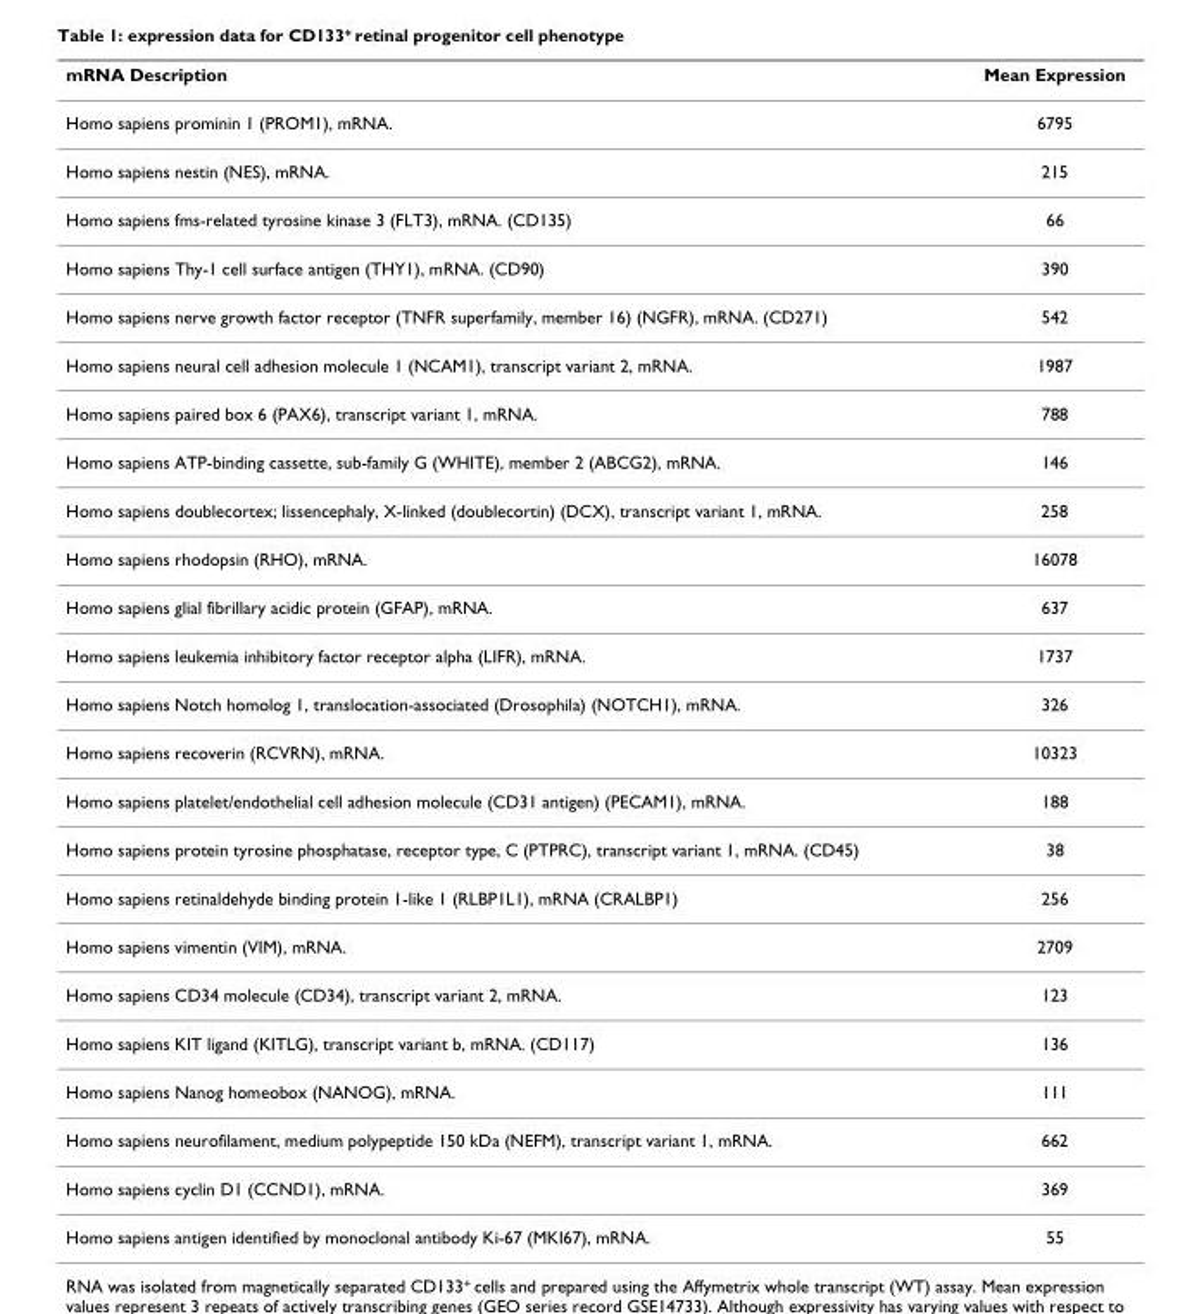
<table><thead><tr><td>mRNA Description</td><td>Mean Expression</td></tr></thead><tbody><tr><td>Homo sapiens prominin 1 (PROM1), mRNA.</td><td>6795</td></tr><tr><td>Homo sapiens nestin (NES), mRNA.</td><td>215</td></tr><tr><td>Homo sapiens fms-related tyrosine kinase 3 (FLT3), mRNA. (CD135)</td><td>66</td></tr><tr><td>Homo sapiens Thy-1 cell surface antigen (THY1), mRNA. (CD90)</td><td>390</td></tr><tr><td>Homo sapiens nerve growth factor receptor (TNFR superfamily, member 16) (NGFR), mRNA. (CD271)</td><td>542</td></tr><tr><td>Homo sapiens neural cell adhesion molecule 1 (NCAM1), transcript variant 2, mRNA.</td><td>1987</td></tr><tr><td>Homo sapiens paired box 6 (PAX6), transcript variant 1, mRNA.</td><td>788</td></tr><tr><td>Homo sapiens ATP-binding cassette, sub-family G (WHITE), member 2 (ABCG2), mRNA.</td><td>146</td></tr><tr><td>Homo sapiens doublecortex; lissencephaly, X-linked (doublecortin) (DCX), transcript variant 1, mRNA.</td><td>258</td></tr><tr><td>Homo sapiens rhodopsin (RHO), mRNA.</td><td>16078</td></tr><tr><td>Homo sapiens glial fibrillary acidic protein (GFAP), mRNA.</td><td>637</td></tr><tr><td>Homo sapiens leukemia inhibitory factor receptor alpha (LIFR), mRNA.</td><td>1737</td></tr><tr><td>Homo sapiens Notch homolog 1, translocation-associated (Drosophila) (NOTCH1), mRNA.</td><td>326</td></tr><tr><td>Homo sapiens recoverin (RCVRN), mRNA.</td><td>10323</td></tr><tr><td>Homo sapiens platelet/endothelial cell adhesion molecule (CD31 antigen) (PECAM1), mRNA.</td><td>188</td></tr><tr><td>Homo sapiens protein tyrosine phosphatase, receptor type, C (PTPRC), transcript variant 1, mRNA. (CD45)</td><td>38</td></tr><tr><td>Homo sapiens retinaldehyde binding protein 1-like 1 (RLBP1L1), mRNA (CRALBP1)</td><td>256</td></tr><tr><td>Homo sapiens vimentin (VIM), mRNA.</td><td>2709</td></tr><tr><td>Homo sapiens CD34 molecule (CD34), transcript variant 2, mRNA.</td><td>123</td></tr><tr><td>Homo sapiens KIT ligand (KITLG), transcript variant b, mRNA. (CD117)</td><td>136</td></tr><tr><td>Homo sapiens Nanog homeobox (NANOG), mRNA.</td><td>111</td></tr><tr><td>Homo sapiens neurofilament, medium polypeptide 150 kDa (NEFM), transcript variant 1, mRNA.</td><td>662</td></tr><tr><td>Homo sapiens cyclin D1 (CCND1), mRNA.</td><td>369</td></tr><tr><td>Homo sapiens antigen identified by monoclonal antibody Ki-67 (MKI67), mRNA.</td><td>55</td></tr></tbody></table>